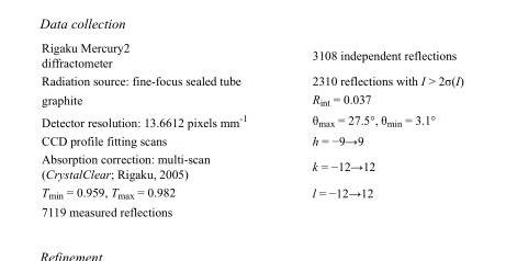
<table><tbody><tr><td>Rigaku Mercury2 diffractometer</td><td>3108 independent reflections</td></tr><tr><td>Radiation source: fine-focus sealed tube</td><td>2310 reflections with I &gt; 2σ(I)</td></tr><tr><td>graphite</td><td>R<sub>int</sub> = 0.037</td></tr><tr><td>Detector resolution: 13.6612 pixels mm<sup>-1</sup></td><td>θ<sub>max</sub> = 27.5°, θ<sub>min</sub> = 3.1°</td></tr><tr><td>CCD profile fitting scans</td><td>h = −9→9</td></tr><tr><td>Absorption correction: multi-scan (CrystalClear; Rigaku, 2005)</td><td>k = −12→12</td></tr><tr><td>T<sub>min</sub> = 0.959, T<sub>max</sub> = 0.982</td><td>l = −12→12</td></tr><tr><td>7119 measured reflections</td><td></td></tr></tbody></table>